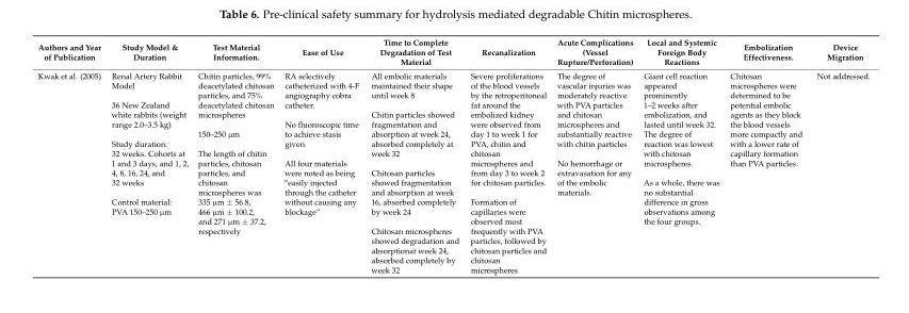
<table><thead><tr><td>Authors and Year of Publication</td><td>Study Model &amp; Duration</td><td>Test Material Information.</td><td>Ease of Use</td><td>Time to Complete Degradation of Test Material</td><td>Recanalization</td><td>Acute Complications (Vessel Rupture/Perforation)</td><td>Local and Systemic Foreign Body Reactions</td><td>Embolization Effectiveness.</td><td>Device Migration</td></tr></thead><tbody><tr><td>Kwak et al. (2005)</td><td>Renal Artery Rabbit Model 36 New Zealand white rabbits (weight range 2.0–3.5 kg) Study duration: 32 weeks. Cohorts at 1 and 3 days, and 1, 2, 4, 8, 16, 24, and 32 weeks Control material: PVA 150–250 µm</td><td>Chitin particles, 99% deacetylated chitosan particles, and 75% deacetylated chitosan microspheres 150–250 µm The length of chitin particles, chitosan particles, and chitosan microspheres was 335 µm ± 56.8, 466 µm ± 100.2, and 271 µm ± 37.2, respectively</td><td>RA selectively catheterized with 4-F angiography cobra catheter. No fluoroscopic time to achieve stasis given All four materials were noted as being “easily injected through the catheter without causing any blockage”</td><td>All embolic materials maintained their shape until week 8 Chitin particles showed fragmentation and absorption at week 24, absorbed completely at week 32 Chitosan particles showed fragmentation and absorption at week 16, absorbed completely by week 24 Chitosan microspheres showed degradation and absorptionat week 24, absorbed completely by week 32</td><td>Severe proliferations of the blood vessels by the retroperitoneal fat around the embolized kidney were observed from day 1 to week 1 for PVA, chitin and chitosan microspheres and from day 3 to week 2 for chitosan particles. Formation of capillaries were observed most frequently with PVA particles, followed by chitosan particles and chitosan microspheres</td><td>The degree of vascular injuries was moderately reactive with PVA particles and chitosan microspheres and substantially reactive with chitin particles No hemorrhage or extravasation for any of the embolic materials.</td><td>Giant cell reaction appeared prominently 1–2 weeks after embolization, and lasted until week 32. The degree of reaction was lowest with chitosan microspheres. As a whole, there was no substantial difference in gross observations among the four groups.</td><td>Chitosan microspheres were determined to be potential embolic agents as they block the blood vessels more compactly and with a lower rate of capillary formation than PVA particles.</td><td>Not addressed.</td></tr></tbody></table>